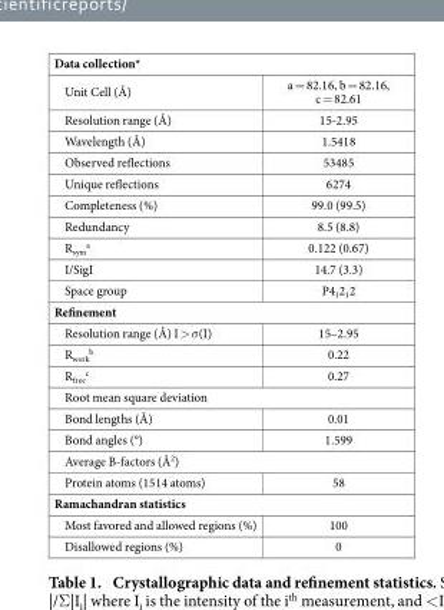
<table><tbody><tr><td colspan="2">Data collection*</td></tr><tr><td>Unit Cell (Å)</td><td>a = 82.16, b = 82.16, c = 82.61</td></tr><tr><td>Resolution range (Å)</td><td>15-2.95</td></tr><tr><td>Wavelength (Å)</td><td>1.5418</td></tr><tr><td>Observed reflections</td><td>53485</td></tr><tr><td>Unique reflections</td><td>6274</td></tr><tr><td>Completeness (%)</td><td>99.0 (99.5)</td></tr><tr><td>Redundancy</td><td>8.5 (8.8)</td></tr><tr><td>R<sub>sym</sub> <sup>a</sup></td><td>0.122 (0.67)</td></tr><tr><td>I/SigI</td><td>14.7 (3.3)</td></tr><tr><td>Space group</td><td>P4<sub>1</sub>2<sub>1</sub>2</td></tr><tr><td colspan="2">Refinement</td></tr><tr><td>Resolution range (Å) I &gt; σ (I)</td><td>15–2.95</td></tr><tr><td>R<sub>work</sub> <sup>b</sup></td><td>0.22</td></tr><tr><td>R<sub>free</sub> <sup>c</sup></td><td>0.27</td></tr><tr><td colspan="2">Root mean square deviation</td></tr><tr><td>Bond lengths (Å)</td><td>0.01</td></tr><tr><td>Bond angles (°)</td><td>1.599</td></tr><tr><td colspan="2">Average B-factors (Å<sup>2</sup>)</td></tr><tr><td>Protein atoms (1514 atoms)</td><td>58</td></tr><tr><td colspan="2">Ramachandran statistics</td></tr><tr><td>Most favored and allowed regions (%)</td><td>100</td></tr><tr><td>Disallowed regions (%)</td><td>0</td></tr></tbody></table>